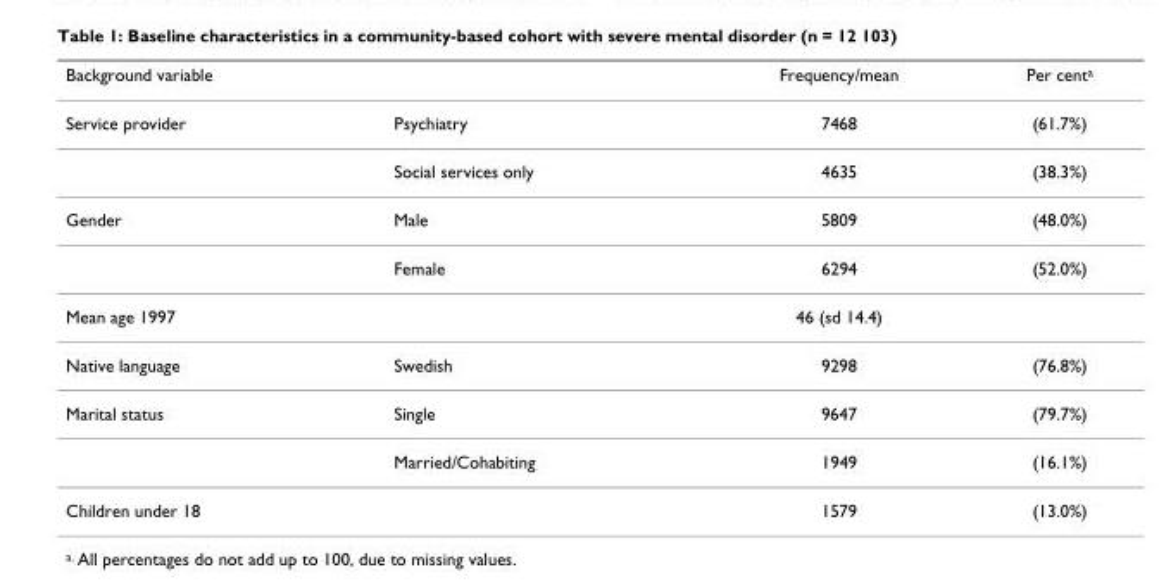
<table><thead><tr><td>Background variable</td><td></td><td>Frequency/mean</td><td>Per cent<sup>a</sup></td></tr></thead><tbody><tr><td rowspan="2">Service provider</td><td>Psychiatry</td><td>7468</td><td>(61.7%)</td></tr><tr><td>Social services only</td><td>4635</td><td>(38.3%)</td></tr><tr><td rowspan="2">Gender</td><td>Male</td><td>5809</td><td>(48.0%)</td></tr><tr><td>Female</td><td>6294</td><td>(52.0%)</td></tr><tr><td>Mean age 1997</td><td></td><td>46 (sd 14.4)</td><td></td></tr><tr><td>Native language</td><td>Swedish</td><td>9298</td><td>(76.8%)</td></tr><tr><td rowspan="2">Marital status</td><td>Single</td><td>9647</td><td>(79.7%)</td></tr><tr><td>Married/Cohabiting</td><td>1949</td><td>(16.1%)</td></tr><tr><td>Children under 18</td><td></td><td>1579</td><td>(13.0%)</td></tr></tbody></table>